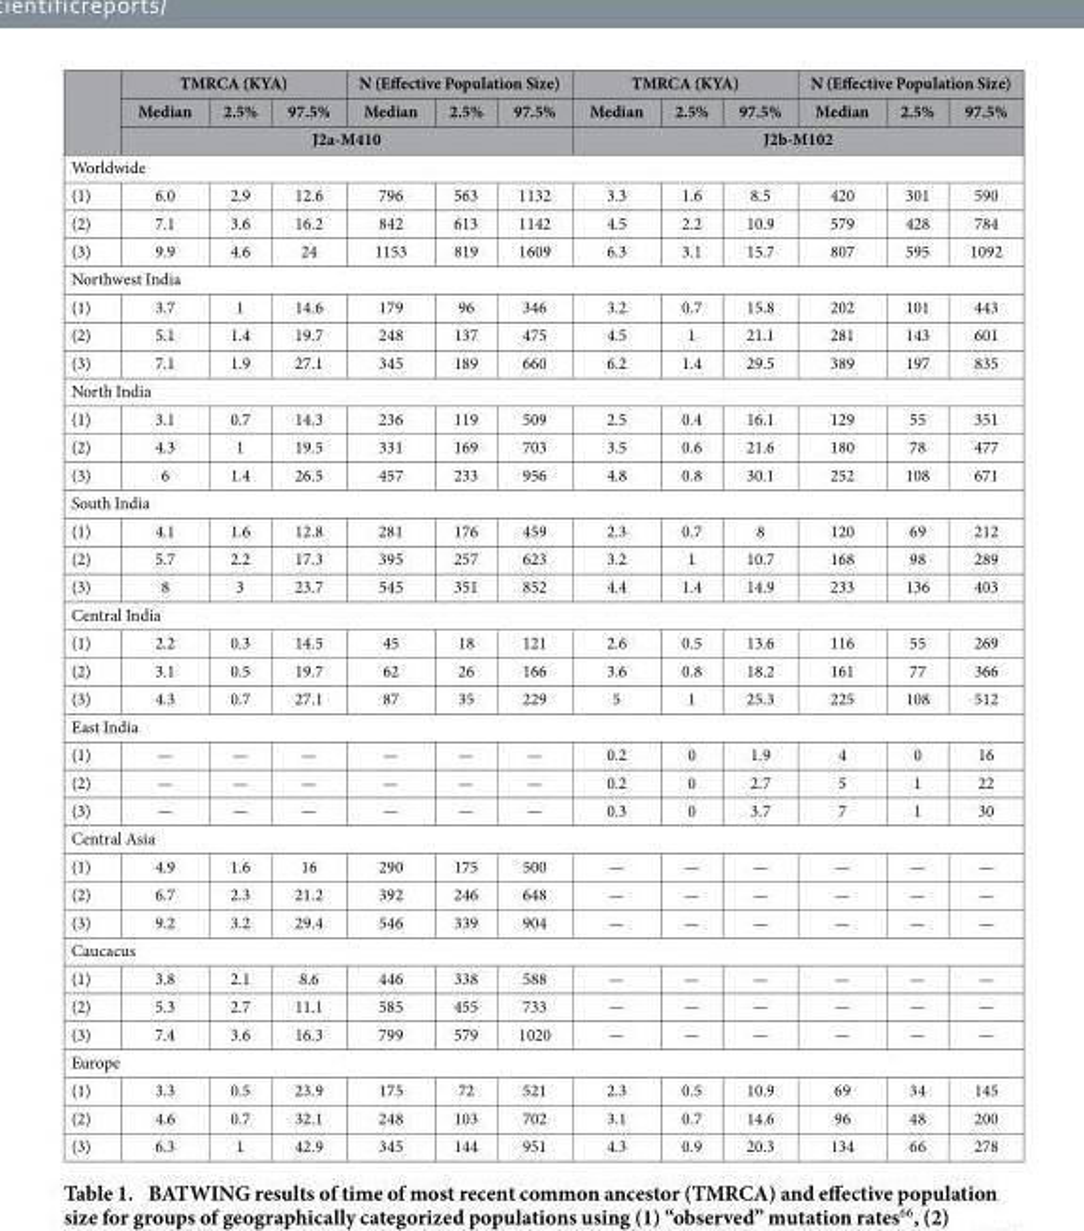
<table><thead><tr><td rowspan="3"></td><td colspan="3">TMRCA (KYA)</td><td colspan="3">N (Effective Population Size)</td><td colspan="3">TMRCA (KYA)</td><td colspan="3">N (Effective Population Size)</td></tr><tr><td>Median</td><td>2.5%</td><td>97.5%</td><td>Median</td><td>2.5%</td><td>97.5%</td><td>Median</td><td>2.5%</td><td>97.5%</td><td>Median</td><td>2.5%</td><td>97.5%</td></tr><tr><td colspan="6">J2a-M410</td><td colspan="6">J2b-M102</td></tr></thead><tbody><tr><td colspan="13">Worldwide</td></tr><tr><td>(1)</td><td>6.0</td><td>2.9</td><td>12.6</td><td>796</td><td>563</td><td>1132</td><td>3.3</td><td>1.6</td><td>8.5</td><td>420</td><td>301</td><td>590</td></tr><tr><td>(2)</td><td>7.1</td><td>3.6</td><td>16.2</td><td>842</td><td>613</td><td>1142</td><td>4.5</td><td>2.2</td><td>10.9</td><td>579</td><td>428</td><td>784</td></tr><tr><td>(3)</td><td>9.9</td><td>4.6</td><td>24</td><td>1153</td><td>819</td><td>1609</td><td>6.3</td><td>3.1</td><td>15.7</td><td>807</td><td>595</td><td>1092</td></tr><tr><td colspan="13">Northwest India</td></tr><tr><td>(1)</td><td>3.7</td><td>1</td><td>14.6</td><td>179</td><td>96</td><td>346</td><td>3.2</td><td>0.7</td><td>15.8</td><td>202</td><td>101</td><td>443</td></tr><tr><td>(2)</td><td>5.1</td><td>1.4</td><td>19.7</td><td>248</td><td>137</td><td>475</td><td>4.5</td><td>1</td><td>21.1</td><td>281</td><td>143</td><td>601</td></tr><tr><td>(3)</td><td>7.1</td><td>1.9</td><td>27.1</td><td>345</td><td>189</td><td>660</td><td>6.2</td><td>1.4</td><td>29.5</td><td>389</td><td>197</td><td>835</td></tr><tr><td colspan="13">North India</td></tr><tr><td>(1)</td><td>3.1</td><td>0.7</td><td>14.3</td><td>236</td><td>119</td><td>509</td><td>2.5</td><td>0.4</td><td>16.1</td><td>129</td><td>55</td><td>351</td></tr><tr><td>(2)</td><td>4.3</td><td>1</td><td>19.5</td><td>331</td><td>169</td><td>703</td><td>3.5</td><td>0.6</td><td>21.6</td><td>180</td><td>78</td><td>477</td></tr><tr><td>(3)</td><td>6</td><td>1.4</td><td>26.5</td><td>457</td><td>233</td><td>956</td><td>4.8</td><td>0.8</td><td>30.1</td><td>252</td><td>108</td><td>671</td></tr><tr><td colspan="13">South India</td></tr><tr><td>(1)</td><td>4.1</td><td>1.6</td><td>12.8</td><td>281</td><td>176</td><td>459</td><td>2.3</td><td>0.7</td><td>8</td><td>120</td><td>69</td><td>212</td></tr><tr><td>(2)</td><td>5.7</td><td>2.2</td><td>17.3</td><td>395</td><td>257</td><td>623</td><td>3.2</td><td>1</td><td>10.7</td><td>168</td><td>98</td><td>289</td></tr><tr><td>(3)</td><td>8</td><td>3</td><td>23.7</td><td>545</td><td>351</td><td>852</td><td>4.4</td><td>1.4</td><td>14.9</td><td>233</td><td>136</td><td>403</td></tr><tr><td colspan="13">Central India</td></tr><tr><td>(1)</td><td>2.2</td><td>0.3</td><td>14.5</td><td>45</td><td>18</td><td>121</td><td>2.6</td><td>0.5</td><td>13.6</td><td>116</td><td>55</td><td>269</td></tr><tr><td>(2)</td><td>3.1</td><td>0.5</td><td>19.7</td><td>62</td><td>26</td><td>166</td><td>3.6</td><td>0.8</td><td>18.2</td><td>161</td><td>77</td><td>366</td></tr><tr><td>(3)</td><td>4.3</td><td>0.7</td><td>27.1</td><td>87</td><td>35</td><td>229</td><td>5</td><td>1</td><td>25.3</td><td>225</td><td>108</td><td>512</td></tr><tr><td colspan="13">East India</td></tr><tr><td>(1)</td><td>—</td><td>—</td><td>—</td><td>—</td><td>—</td><td>—</td><td>0.2</td><td>0</td><td>1.9</td><td>4</td><td>0</td><td>16</td></tr><tr><td>(2)</td><td>—</td><td>—</td><td>—</td><td>—</td><td>—</td><td>—</td><td>0.2</td><td>0</td><td>2.7</td><td>5</td><td>1</td><td>22</td></tr><tr><td>(3)</td><td>—</td><td>—</td><td>—</td><td>—</td><td>—</td><td>—</td><td>0.3</td><td>0</td><td>3.7</td><td>7</td><td>1</td><td>30</td></tr><tr><td colspan="13">Central Asia</td></tr><tr><td>(1)</td><td>4.9</td><td>1.6</td><td>16</td><td>290</td><td>175</td><td>500</td><td>—</td><td>—</td><td>—</td><td>—</td><td>—</td><td>—</td></tr><tr><td>(2)</td><td>6.7</td><td>2.3</td><td>21.2</td><td>392</td><td>246</td><td>648</td><td>—</td><td>—</td><td>—</td><td>—</td><td>—</td><td>—</td></tr><tr><td>(3)</td><td>9.2</td><td>3.2</td><td>29.4</td><td>546</td><td>339</td><td>904</td><td>—</td><td>—</td><td>—</td><td>—</td><td>—</td><td>—</td></tr><tr><td colspan="13">Caucacus</td></tr><tr><td>(1)</td><td>3.8</td><td>2.1</td><td>8.6</td><td>446</td><td>338</td><td>588</td><td>—</td><td>—</td><td>—</td><td>—</td><td>—</td><td>—</td></tr><tr><td>(2)</td><td>5.3</td><td>2.7</td><td>11.1</td><td>585</td><td>455</td><td>733</td><td>—</td><td>—</td><td>—</td><td>—</td><td>—</td><td>—</td></tr><tr><td>(3)</td><td>7.4</td><td>3.6</td><td>16.3</td><td>799</td><td>579</td><td>1020</td><td>—</td><td>—</td><td>—</td><td>—</td><td>—</td><td>—</td></tr><tr><td colspan="13">Europe</td></tr><tr><td>(1)</td><td>3.3</td><td>0.5</td><td>23.9</td><td>175</td><td>72</td><td>521</td><td>2.3</td><td>0.5</td><td>10.9</td><td>69</td><td>34</td><td>145</td></tr><tr><td>(2)</td><td>4.6</td><td>0.7</td><td>32.1</td><td>248</td><td>103</td><td>702</td><td>3.1</td><td>0.7</td><td>14.6</td><td>96</td><td>48</td><td>200</td></tr><tr><td>(3)</td><td>6.3</td><td>1</td><td>42.9</td><td>345</td><td>144</td><td>951</td><td>4.3</td><td>0.9</td><td>20.3</td><td>134</td><td>66</td><td>278</td></tr></tbody></table>